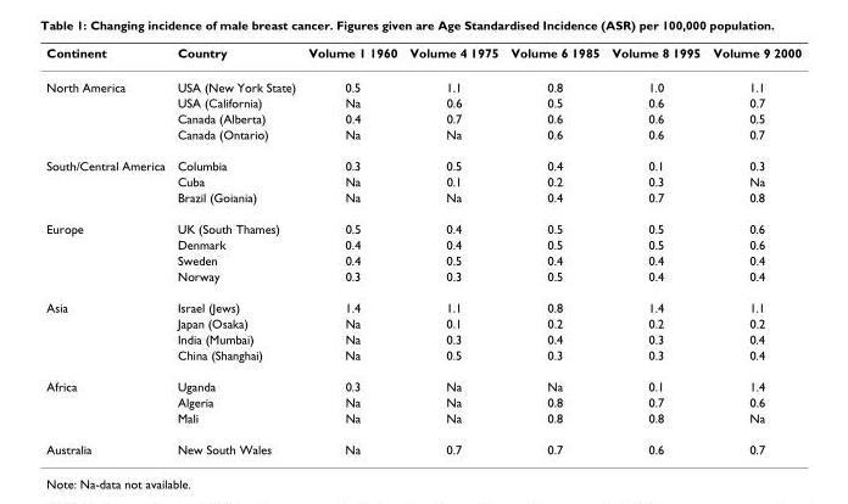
<table><thead><tr><td>Continent</td><td>Country</td><td>Volume 1 1960</td><td>Volume 4 1975</td><td>Volume 6 1985</td><td>Volume 8 1995</td><td>Volume 9 2000</td></tr></thead><tbody><tr><td rowspan="4">North America</td><td>USA (New York State)</td><td>0.5</td><td>1.1</td><td>0.8</td><td>1.0</td><td>1.1</td></tr><tr><td>USA (California)</td><td>Na</td><td>0.6</td><td>0.5</td><td>0.6</td><td>0.7</td></tr><tr><td>Canada (Alberta)</td><td>0.4</td><td>0.7</td><td>0.6</td><td>0.6</td><td>0.5</td></tr><tr><td>Canada (Ontario)</td><td>Na</td><td>Na</td><td>0.6</td><td>0.6</td><td>0.7</td></tr><tr><td rowspan="3">South/Central America</td><td>Columbia</td><td>0.3</td><td>0.5</td><td>0.4</td><td>0.1</td><td>0.3</td></tr><tr><td>Cuba</td><td>Na</td><td>0.1</td><td>0.2</td><td>0.3</td><td>Na</td></tr><tr><td>Brazil (Goiania)</td><td>Na</td><td>Na</td><td>0.4</td><td>0.7</td><td>0.8</td></tr><tr><td rowspan="4">Europe</td><td>UK (South Thames)</td><td>0.5</td><td>0.4</td><td>0.5</td><td>0.5</td><td>0.6</td></tr><tr><td>Denmark</td><td>0.4</td><td>0.4</td><td>0.5</td><td>0.5</td><td>0.6</td></tr><tr><td>Sweden</td><td>0.4</td><td>0.5</td><td>0.4</td><td>0.4</td><td>0.4</td></tr><tr><td>Norway</td><td>0.3</td><td>0.3</td><td>0.5</td><td>0.4</td><td>0.4</td></tr><tr><td rowspan="4">Asia</td><td>Israel (Jews)</td><td>1.4</td><td>1.1</td><td>0.8</td><td>1.4</td><td>1.1</td></tr><tr><td>Japan (Osaka)</td><td>Na</td><td>0.1</td><td>0.2</td><td>0.2</td><td>0.2</td></tr><tr><td>India (Mumbai)</td><td>Na</td><td>0.3</td><td>0.4</td><td>0.3</td><td>0.4</td></tr><tr><td>China (Shanghai)</td><td>Na</td><td>0.5</td><td>0.3</td><td>0.3</td><td>0.4</td></tr><tr><td rowspan="3">Africa</td><td>Uganda</td><td>0.3</td><td>Na</td><td>Na</td><td>0.1</td><td>1.4</td></tr><tr><td>Algeria</td><td>Na</td><td>Na</td><td>0.8</td><td>0.7</td><td>0.6</td></tr><tr><td>Mali</td><td>Na</td><td>Na</td><td>0.8</td><td>0.8</td><td>Na</td></tr><tr><td>Australia</td><td>New South Wales</td><td>Na</td><td>0.7</td><td>0.7</td><td>0.6</td><td>0.7</td></tr></tbody></table>